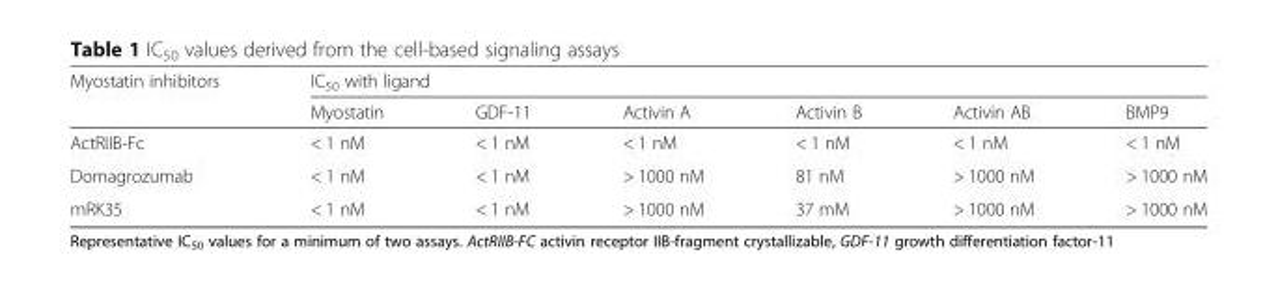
<table><thead><tr><td rowspan="2">Myostatin inhibitors</td><td colspan="6">IC<sub>50</sub> with ligand</td></tr><tr><td>Myostatin</td><td>GDF-11</td><td>Activin A</td><td>Activin B</td><td>Activin AB</td><td>BMP9</td></tr></thead><tbody><tr><td>ActRIIB-Fc</td><td>&lt; 1 nM</td><td>&lt; 1 nM</td><td>&lt; 1 nM</td><td>&lt; 1 nM</td><td>&lt; 1 nM</td><td>&lt; 1 nM</td></tr><tr><td>Domagrozumab</td><td>&lt; 1 nM</td><td>&lt; 1 nM</td><td>&gt; 1000 nM</td><td>81 nM</td><td>&gt; 1000 nM</td><td>&gt; 1000 nM</td></tr><tr><td>mRK35</td><td>&lt; 1 nM</td><td>&lt; 1 nM</td><td>&gt; 1000 nM</td><td>37 mM</td><td>&gt; 1000 nM</td><td>&gt; 1000 nM</td></tr></tbody></table>